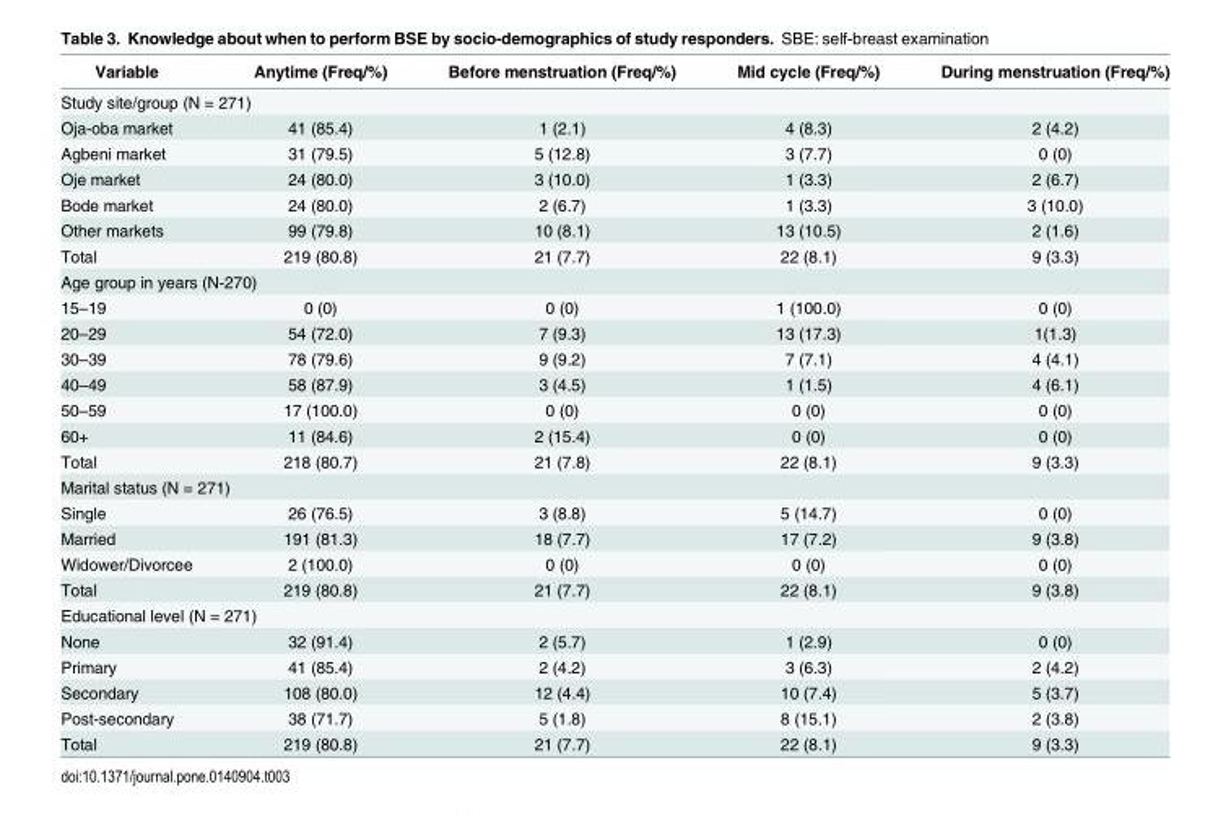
<table><thead><tr><td>Variable</td><td>Anytime (Freq/%)</td><td>Before menstruation (Freq/%)</td><td>Mid cycle (Freq/%)</td><td>During menstruation (Freq/%)</td></tr></thead><tbody><tr><td colspan="5">Study site/group (N = 271)</td></tr><tr><td>Oja-oba market</td><td>41 (85.4)</td><td>1 (2.1)</td><td>4 (8.3)</td><td>2 (4.2)</td></tr><tr><td>Agbeni market</td><td>31 (79.5)</td><td>5 (12.8)</td><td>3 (7.7)</td><td>0 (0)</td></tr><tr><td>Oje market</td><td>24 (80.0)</td><td>3 (10.0)</td><td>1 (3.3)</td><td>2 (6.7)</td></tr><tr><td>Bode market</td><td>24 (80.0)</td><td>2 (6.7)</td><td>1 (3.3)</td><td>3 (10.0)</td></tr><tr><td>Other markets</td><td>99 (79.8)</td><td>10 (8.1)</td><td>13 (10.5)</td><td>2 (1.6)</td></tr><tr><td>Total</td><td>219 (80.8)</td><td>21 (7.7)</td><td>22 (8.1)</td><td>9 (3.3)</td></tr><tr><td colspan="5">Age group in years (N-270)</td></tr><tr><td>15–19</td><td>0 (0)</td><td>0 (0)</td><td>1 (100.0)</td><td>0 (0)</td></tr><tr><td>20–29</td><td>54 (72.0)</td><td>7 (9.3)</td><td>13 (17.3)</td><td>1(1.3)</td></tr><tr><td>30–39</td><td>78 (79.6)</td><td>9 (9.2)</td><td>7 (7.1)</td><td>4 (4.1)</td></tr><tr><td>40–49</td><td>58 (87.9)</td><td>3 (4.5)</td><td>1 (1.5)</td><td>4 (6.1)</td></tr><tr><td>50–59</td><td>17 (100.0)</td><td>0 (0)</td><td>0 (0)</td><td>0 (0)</td></tr><tr><td>60+</td><td>11 (84.6)</td><td>2 (15.4)</td><td>0 (0)</td><td>0 (0)</td></tr><tr><td>Total</td><td>218 (80.7)</td><td>21 (7.8)</td><td>22 (8.1)</td><td>9 (3.3)</td></tr><tr><td colspan="5">Marital status (N = 271)</td></tr><tr><td>Single</td><td>26 (76.5)</td><td>3 (8.8)</td><td>5 (14.7)</td><td>0 (0)</td></tr><tr><td>Married</td><td>191 (81.3)</td><td>18 (7.7)</td><td>17 (7.2)</td><td>9 (3.8)</td></tr><tr><td>Widower/Divorcee</td><td>2 (100.0)</td><td>0 (0)</td><td>0 (0)</td><td>0 (0)</td></tr><tr><td>Total</td><td>219 (80.8)</td><td>21 (7.7)</td><td>22 (8.1)</td><td>9 (3.8)</td></tr><tr><td colspan="5">Educational level (N = 271)</td></tr><tr><td>None</td><td>32 (91.4)</td><td>2 (5.7)</td><td>1 (2.9)</td><td>0 (0)</td></tr><tr><td>Primary</td><td>41 (85.4)</td><td>2 (4.2)</td><td>3 (6.3)</td><td>2 (4.2)</td></tr><tr><td>Secondary</td><td>108 (80.0)</td><td>12 (4.4)</td><td>10 (7.4)</td><td>5 (3.7)</td></tr><tr><td>Post-secondary</td><td>38 (71.7)</td><td>5 (1.8)</td><td>8 (15.1)</td><td>2 (3.8)</td></tr><tr><td>Total</td><td>219 (80.8)</td><td>21 (7.7)</td><td>22 (8.1)</td><td>9 (3.3)</td></tr></tbody></table>